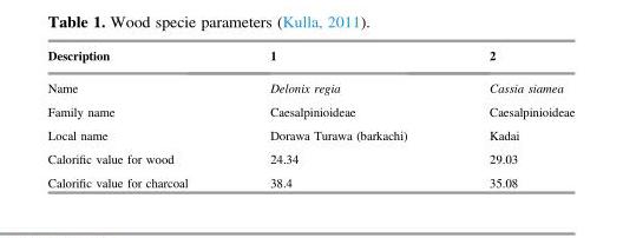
<table><thead><tr><td>Description</td><td>1</td><td>2</td></tr></thead><tbody><tr><td>Name</td><td>Delonix regia</td><td>Cassia siamea</td></tr><tr><td>Family name</td><td>Caesalpinioideae</td><td>Caesalpinioideae</td></tr><tr><td>Local name</td><td>Dorawa Turawa (barkachi)</td><td>Kadai</td></tr><tr><td>Calorific value for wood</td><td>24.34</td><td>29.03</td></tr><tr><td>Calorific value for charcoal</td><td>38.4</td><td>35.08</td></tr></tbody></table>